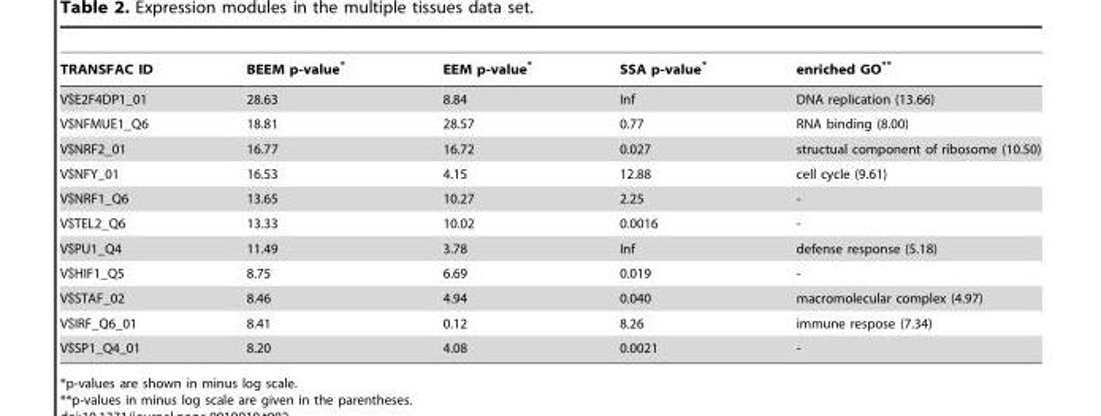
<table><thead><tr><td>TRANSFAC ID</td><td>BEEM p-value*</td><td>EEM p-value*</td><td>SSA p-value*</td><td>enriched GO**</td></tr></thead><tbody><tr><td>V$E2F4DP1_01</td><td>28.63</td><td>8.84</td><td>Inf</td><td>DNA replication (13.66)</td></tr><tr><td>V$NFMUE1_Q6</td><td>18.81</td><td>28.57</td><td>0.77</td><td>RNA binding (8.00)</td></tr><tr><td>V$NRF2_01</td><td>16.77</td><td>16.72</td><td>0.027</td><td>structual component of ribosome (10.50)</td></tr><tr><td>V$NFY_01</td><td>16.53</td><td>4.15</td><td>12.88</td><td>cell cycle (9.61)</td></tr><tr><td>V$NRF1_Q6</td><td>13.65</td><td>10.27</td><td>2.25</td><td>-</td></tr><tr><td>V$TEL2_Q6</td><td>13.33</td><td>10.02</td><td>0.0016</td><td>-</td></tr><tr><td>V$PU1_Q4</td><td>11.49</td><td>3.78</td><td>Inf</td><td>defense response (5.18)</td></tr><tr><td>V$HIF1_Q5</td><td>8.75</td><td>6.69</td><td>0.019</td><td>-</td></tr><tr><td>V$STAF_02</td><td>8.46</td><td>4.94</td><td>0.040</td><td>macromolecular complex (4.97)</td></tr><tr><td>V$IRF_Q6_01</td><td>8.41</td><td>0.12</td><td>8.26</td><td>immune respose (7.34)</td></tr><tr><td>V$SP1_Q4_01</td><td>8.20</td><td>4.08</td><td>0.0021</td><td>-</td></tr></tbody></table>